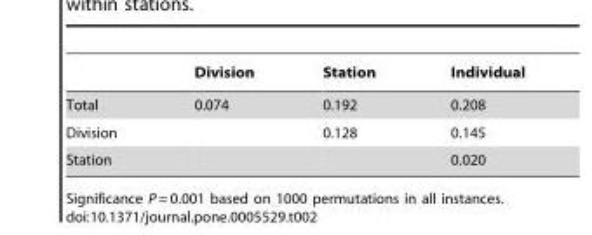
<table><thead><tr><td></td><td>Division</td><td>Station</td><td>Individual</td></tr></thead><tbody><tr><td>Total</td><td>0.074</td><td>0.192</td><td>0.208</td></tr><tr><td>Division</td><td></td><td>0.128</td><td>0.145</td></tr><tr><td>Station</td><td></td><td></td><td>0.020</td></tr></tbody></table>